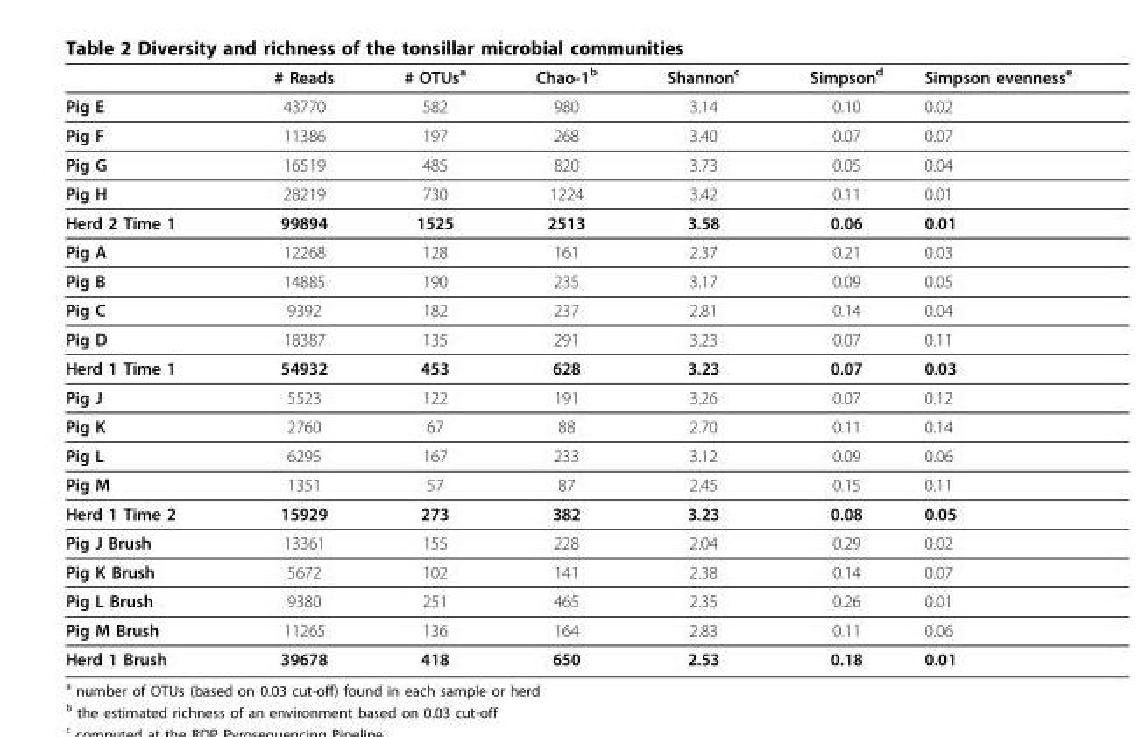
<table><thead><tr><td></td><td># Reads</td><td># OTUs<sup>a</sup></td><td>Chao-1<sup>b</sup></td><td>Shannon<sup>c</sup></td><td>Simpson<sup>d</sup></td><td>Simpson evenness<sup>e</sup></td></tr></thead><tbody><tr><td>Pig E</td><td>43770</td><td>582</td><td>980</td><td>3.14</td><td>0.10</td><td>0.02</td></tr><tr><td>Pig F</td><td>11386</td><td>197</td><td>268</td><td>3.40</td><td>0.07</td><td>0.07</td></tr><tr><td>Pig G</td><td>16519</td><td>485</td><td>820</td><td>3.73</td><td>0.05</td><td>0.04</td></tr><tr><td>Pig H</td><td>28219</td><td>730</td><td>1224</td><td>3.42</td><td>0.11</td><td>0.01</td></tr><tr><td>Herd 2 Time 1</td><td>99894</td><td>1525</td><td>2513</td><td>3.58</td><td>0.06</td><td>0.01</td></tr><tr><td>Pig A</td><td>12268</td><td>128</td><td>161</td><td>2.37</td><td>0.21</td><td>0.03</td></tr><tr><td>Pig B</td><td>14885</td><td>190</td><td>235</td><td>3.17</td><td>0.09</td><td>0.05</td></tr><tr><td>Pig C</td><td>9392</td><td>182</td><td>237</td><td>2.81</td><td>0.14</td><td>0.04</td></tr><tr><td>Pig D</td><td>18387</td><td>135</td><td>291</td><td>3.23</td><td>0.07</td><td>0.11</td></tr><tr><td>Herd 1 Time 1</td><td>54932</td><td>453</td><td>628</td><td>3.23</td><td>0.07</td><td>0.03</td></tr><tr><td>Pig J</td><td>5523</td><td>122</td><td>191</td><td>3.26</td><td>0.07</td><td>0.12</td></tr><tr><td>Pig K</td><td>2760</td><td>67</td><td>88</td><td>2.70</td><td>0.11</td><td>0.14</td></tr><tr><td>Pig L</td><td>6295</td><td>167</td><td>233</td><td>3.12</td><td>0.09</td><td>0.06</td></tr><tr><td>Pig M</td><td>1351</td><td>57</td><td>87</td><td>2.45</td><td>0.15</td><td>0.11</td></tr><tr><td>Herd 1 Time 2</td><td>15929</td><td>273</td><td>382</td><td>3.23</td><td>0.08</td><td>0.05</td></tr><tr><td>Pig J Brush</td><td>13361</td><td>155</td><td>228</td><td>2.04</td><td>0.29</td><td>0.02</td></tr><tr><td>Pig K Brush</td><td>5672</td><td>102</td><td>141</td><td>2.38</td><td>0.14</td><td>0.07</td></tr><tr><td>Pig L Brush</td><td>9380</td><td>251</td><td>465</td><td>2.35</td><td>0.26</td><td>0.01</td></tr><tr><td>Pig M Brush</td><td>11265</td><td>136</td><td>164</td><td>2.83</td><td>0.11</td><td>0.06</td></tr><tr><td>Herd 1 Brush</td><td>39678</td><td>418</td><td>650</td><td>2.53</td><td>0.18</td><td>0.01</td></tr></tbody></table>